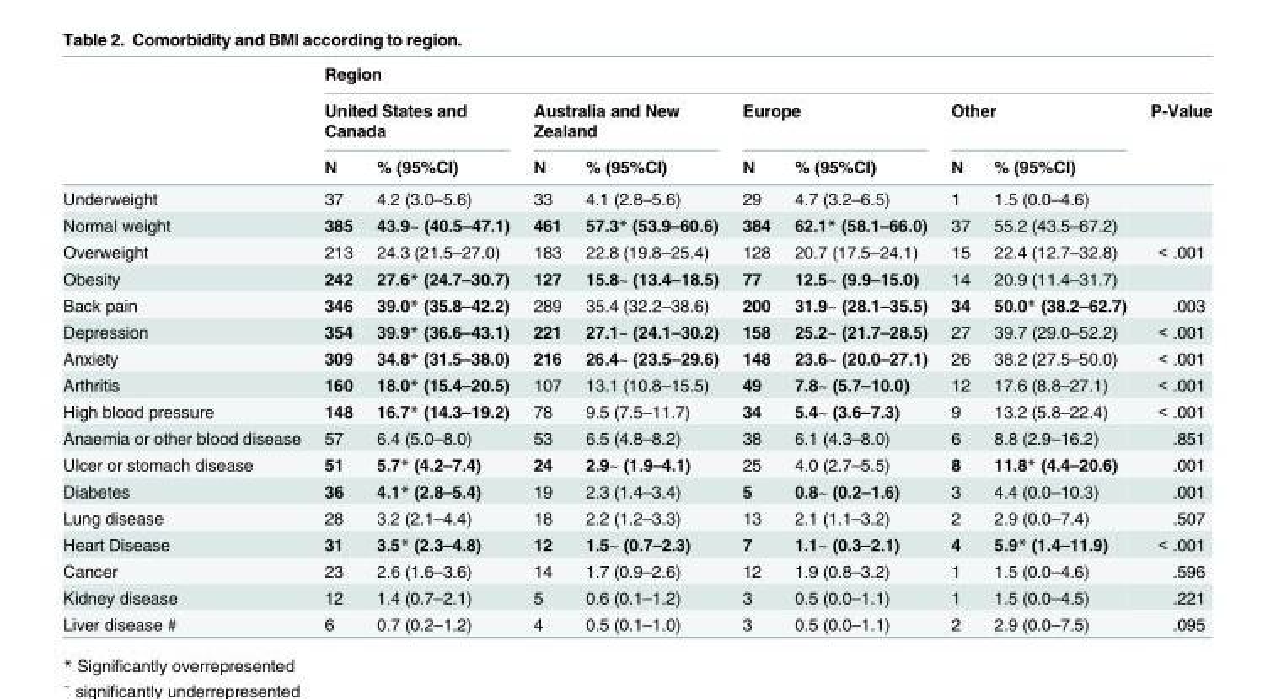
<table><thead><tr><td rowspan="3"></td><td colspan="9">Region</td></tr><tr><td colspan="2">United States and Canada</td><td colspan="2">Australia and New Zealand</td><td colspan="2">Europe</td><td colspan="2">Other</td><td rowspan="2">P-Value</td></tr><tr><td>N</td><td>% (95%CI)</td><td>N</td><td>% (95%CI)</td><td>N</td><td>% (95%CI)</td><td>N</td><td>% (95%CI)</td></tr></thead><tbody><tr><td>Underweight</td><td>37</td><td>4.2 (3.0–5.6)</td><td>33</td><td>4.1 (2.8–5.6)</td><td>29</td><td>4.7 (3.2–6.5)</td><td>1</td><td>1.5 (0.0–4.6)</td><td></td></tr><tr><td>Normal weight</td><td>385</td><td>43.9~ (40.5–47.1)</td><td>461</td><td>57.3* (53.9–60.6)</td><td>384</td><td>62.1* (58.1–66.0)</td><td>37</td><td>55.2 (43.5–67.2)</td><td></td></tr><tr><td>Overweight</td><td>213</td><td>24.3 (21.5–27.0)</td><td>183</td><td>22.8 (19.8–25.4)</td><td>128</td><td>20.7 (17.5–24.1)</td><td>15</td><td>22.4 (12.7–32.8)</td><td>&lt; .001</td></tr><tr><td>Obesity</td><td>242</td><td>27.6* (24.7–30.7)</td><td>127</td><td>15.8~ (13.4–18.5)</td><td>77</td><td>12.5~ (9.9–15.0)</td><td>14</td><td>20.9 (11.4–31.7)</td><td></td></tr><tr><td>Back pain</td><td>346</td><td>39.0* (35.8–42.2)</td><td>289</td><td>35.4 (32.2–38.6)</td><td>200</td><td>31.9~ (28.1–35.5)</td><td>34</td><td>50.0* (38.2–62.7)</td><td>.003</td></tr><tr><td>Depression</td><td>354</td><td>39.9* (36.6–43.1)</td><td>221</td><td>27.1~ (24.1–30.2)</td><td>158</td><td>25.2~ (21.7–28.5)</td><td>27</td><td>39.7 (29.0–52.2)</td><td>&lt; .001</td></tr><tr><td>Anxiety</td><td>309</td><td>34.8* (31.5–38.0)</td><td>216</td><td>26.4~ (23.5–29.6)</td><td>148</td><td>23.6~ (20.0–27.1)</td><td>26</td><td>38.2 (27.5–50.0)</td><td>&lt; .001</td></tr><tr><td>Arthritis</td><td>160</td><td>18.0* (15.4–20.5)</td><td>107</td><td>13.1 (10.8–15.5)</td><td>49</td><td>7.8~ (5.7–10.0)</td><td>12</td><td>17.6 (8.8–27.1)</td><td>&lt; .001</td></tr><tr><td>High blood pressure</td><td>148</td><td>16.7* (14.3–19.2)</td><td>78</td><td>9.5 (7.5–11.7)</td><td>34</td><td>5.4~ (3.6–7.3)</td><td>9</td><td>13.2 (5.8–22.4)</td><td>&lt; .001</td></tr><tr><td>Anaemia or other blood disease</td><td>57</td><td>6.4 (5.0–8.0)</td><td>53</td><td>6.5 (4.8–8.2)</td><td>38</td><td>6.1 (4.3–8.0)</td><td>6</td><td>8.8 (2.9–16.2)</td><td>.851</td></tr><tr><td>Ulcer or stomach disease</td><td>51</td><td>5.7* (4.2–7.4)</td><td>24</td><td>2.9~ (1.9–4.1)</td><td>25</td><td>4.0 (2.7–5.5)</td><td>8</td><td>11.8* (4.4–20.6)</td><td>.001</td></tr><tr><td>Diabetes</td><td>36</td><td>4.1* (2.8–5.4)</td><td>19</td><td>2.3 (1.4–3.4)</td><td>5</td><td>0.8~ (0.2–1.6)</td><td>3</td><td>4.4 (0.0–10.3)</td><td>.001</td></tr><tr><td>Lung disease</td><td>28</td><td>3.2 (2.1–4.4)</td><td>18</td><td>2.2 (1.2–3.3)</td><td>13</td><td>2.1 (1.1–3.2)</td><td>2</td><td>2.9 (0.0–7.4)</td><td>.507</td></tr><tr><td>Heart Disease</td><td>31</td><td>3.5* (2.3–4.8)</td><td>12</td><td>1.5~ (0.7–2.3)</td><td>7</td><td>1.1~ (0.3–2.1)</td><td>4</td><td>5.9* (1.4–11.9)</td><td>&lt; .001</td></tr><tr><td>Cancer</td><td>23</td><td>2.6 (1.6–3.6)</td><td>14</td><td>1.7 (0.9–2.6)</td><td>12</td><td>1.9 (0.8–3.2)</td><td>1</td><td>1.5 (0.0–4.6)</td><td>.596</td></tr><tr><td>Kidney disease</td><td>12</td><td>1.4 (0.7–2.1)</td><td>5</td><td>0.6 (0.1–1.2)</td><td>3</td><td>0.5 (0.0–1.1)</td><td>1</td><td>1.5 (0.0–4.5)</td><td>.221</td></tr><tr><td>Liver disease #</td><td>6</td><td>0.7 (0.2–1.2)</td><td>4</td><td>0.5 (0.1–1.0)</td><td>3</td><td>0.5 (0.0–1.1)</td><td>2</td><td>2.9 (0.0–7.5)</td><td>.095</td></tr></tbody></table>